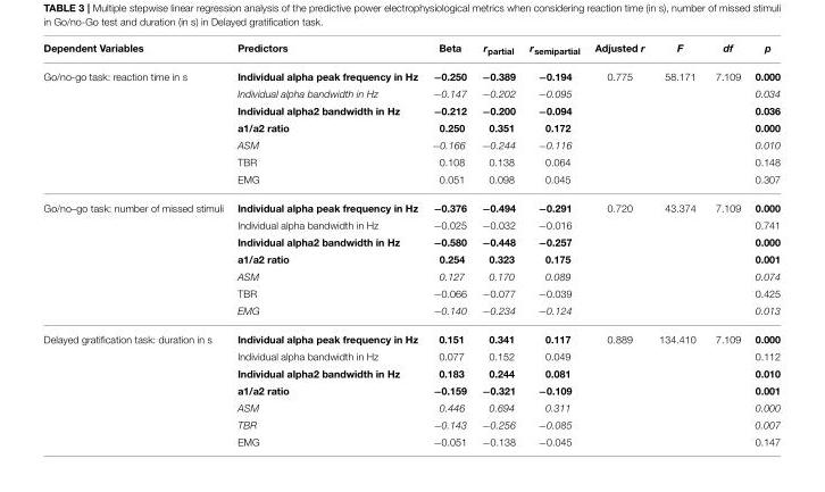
<table><thead><tr><td>Dependent Variables</td><td>Predictors</td><td>Beta</td><td>r<sub>partial</sub></td><td>r<sub>semipartial</sub></td><td>Adjusted r</td><td>F</td><td>df</td><td>p</td></tr></thead><tbody><tr><td rowspan="7">Go/no-go task: reaction time in s</td><td>Individual alpha peak frequency in Hz</td><td>−0.250</td><td>−0.389</td><td>−0.194</td><td>0.775</td><td>58.171</td><td>7.109</td><td>0.000</td></tr><tr><td>Individual alpha bandwidth in Hz</td><td>−0.147</td><td>−0.202</td><td>−0.095</td><td></td><td></td><td></td><td>0.034</td></tr><tr><td>Individual alpha2 bandwidth in Hz</td><td>−0.212</td><td>−0.200</td><td>−0.094</td><td></td><td></td><td></td><td>0.036</td></tr><tr><td>a1/a2 ratio</td><td>0.250</td><td>0.351</td><td>0.172</td><td></td><td></td><td></td><td>0.000</td></tr><tr><td>ASM</td><td>−0.166</td><td>−0.244</td><td>−0.116</td><td></td><td></td><td></td><td>0.010</td></tr><tr><td>TBR</td><td>0.108</td><td>0.138</td><td>0.064</td><td></td><td></td><td></td><td>0.148</td></tr><tr><td>EMG</td><td>0.051</td><td>0.098</td><td>0.045</td><td></td><td></td><td></td><td>0.307</td></tr><tr><td rowspan="7">Go/no–go task: number of missed stimuli</td><td>Individual alpha peak frequency in Hz</td><td>−0.376</td><td>−0.494</td><td>−0.291</td><td>0.720</td><td>43.374</td><td>7.109</td><td>0.000</td></tr><tr><td>Individual alpha bandwidth in Hz</td><td>−0.025</td><td>−0.032</td><td>−0.016</td><td></td><td></td><td></td><td>0.741</td></tr><tr><td>Individual alpha2 bandwidth in Hz</td><td>−0.580</td><td>−0.448</td><td>−0.257</td><td></td><td></td><td></td><td>0.000</td></tr><tr><td>a1/a2 ratio</td><td>0.254</td><td>0.323</td><td>0.175</td><td></td><td></td><td></td><td>0.001</td></tr><tr><td>ASM</td><td>0.127</td><td>0.170</td><td>0.089</td><td></td><td></td><td></td><td>0.074</td></tr><tr><td>TBR</td><td>−0.066</td><td>−0.077</td><td>−0.039</td><td></td><td></td><td></td><td>0.425</td></tr><tr><td>EMG</td><td>−0.140</td><td>−0.234</td><td>−0.124</td><td></td><td></td><td></td><td>0.013</td></tr><tr><td rowspan="7">Delayed gratification task: duration in s</td><td>Individual alpha peak frequency in Hz</td><td>0.151</td><td>0.341</td><td>0.117</td><td>0.889</td><td>134.410</td><td>7.109</td><td>0.000</td></tr><tr><td>Individual alpha bandwidth in Hz</td><td>0.077</td><td>0.152</td><td>0.049</td><td></td><td></td><td></td><td>0.112</td></tr><tr><td>Individual alpha2 bandwidth in Hz</td><td>0.183</td><td>0.244</td><td>0.081</td><td></td><td></td><td></td><td>0.010</td></tr><tr><td>a1/a2 ratio</td><td>−0.159</td><td>−0.321</td><td>−0.109</td><td></td><td></td><td></td><td>0.001</td></tr><tr><td>ASM</td><td>0.446</td><td>0.694</td><td>0.311</td><td></td><td></td><td></td><td>0.000</td></tr><tr><td>TBR</td><td>−0.143</td><td>−0.256</td><td>−0.085</td><td></td><td></td><td></td><td>0.007</td></tr><tr><td>EMG</td><td>−0.051</td><td>−0.138</td><td>−0.045</td><td></td><td></td><td></td><td>0.147</td></tr></tbody></table>